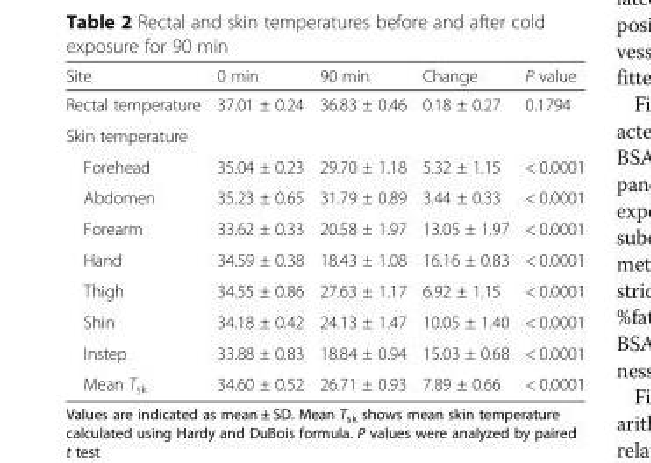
<table><thead><tr><td>Site</td><td>0 min</td><td>90 min</td><td>Change</td><td>P value</td></tr></thead><tbody><tr><td>Rectal temperature</td><td>37.01 ± 0.24</td><td>36.83 ± 0.46</td><td>0.18 ± 0.27</td><td>0.1794</td></tr><tr><td colspan="5">Skin temperature</td></tr><tr><td>Forehead</td><td>35.04 ± 0.23</td><td>29.70 ± 1.18</td><td>5.32 ± 1.15</td><td>&lt; 0.0001</td></tr><tr><td>Abdomen</td><td>35.23 ± 0.65</td><td>31.79 ± 0.89</td><td>3.44 ± 0.33</td><td>&lt; 0.0001</td></tr><tr><td>Forearm</td><td>33.62 ± 0.33</td><td>20.58 ± 1.97</td><td>13.05 ± 1.97</td><td>&lt; 0.0001</td></tr><tr><td>Hand</td><td>34.59 ± 0.38</td><td>18.43 ± 1.08</td><td>16.16 ± 0.83</td><td>&lt; 0.0001</td></tr><tr><td>Thigh</td><td>34.55 ± 0.86</td><td>27.63 ± 1.17</td><td>6.92 ± 1.15</td><td>&lt; 0.0001</td></tr><tr><td>Shin</td><td>34.18 ± 0.42</td><td>24.13 ± 1.47</td><td>10.05 ± 1.40</td><td>&lt; 0.0001</td></tr><tr><td>Instep</td><td>33.88 ± 0.83</td><td>18.84 ± 0.94</td><td>15.03 ± 0.68</td><td>&lt; 0.0001</td></tr><tr><td>Mean T<sub>sk</sub></td><td>34.60 ± 0.52</td><td>26.71 ± 0.93</td><td>7.89 ± 0.66</td><td>&lt; 0.0001</td></tr></tbody></table>